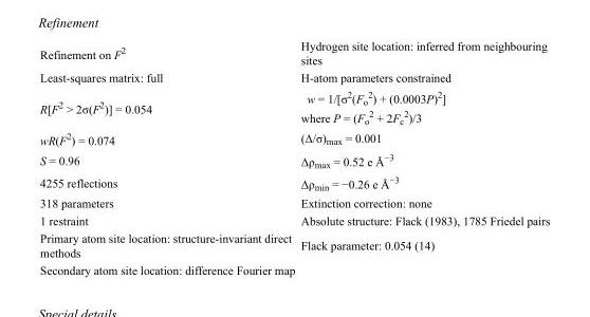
<table><tbody><tr><td>Refinement on F<sup>2</sup></td><td>Hydrogen site location: inferred from neighbouring sites</td></tr><tr><td>Least-squares matrix: full</td><td>H-atom parameters constrained</td></tr><tr><td>R[F<sup>2</sup> &gt; 2σ(F<sup>2</sup>)] = 0.054</td><td>w = 1/[σ<sup>2</sup>(F<sub>o</sub> <sup>2</sup>) + (0.0003P)<sup>2</sup>] where P = (F<sub>o</sub> <sup>2</sup> + 2F<sub>c</sub> <sup>2</sup>)/3</td></tr><tr><td>wR(F<sup>2</sup>) = 0.074</td><td>(Δ/σ)<sub>max</sub> = 0.001</td></tr><tr><td>S = 0.96</td><td>Δρ<sub>max</sub> = 0.52 e Å<sup>−3</sup></td></tr><tr><td>4255 reflections</td><td>Δρ<sub>min</sub> = −0.26 e Å<sup>−3</sup></td></tr><tr><td>318 parameters</td><td>Extinction correction: none</td></tr><tr><td>1 restraint</td><td>Absolute structure: Flack (1983), 1785 Friedel pairs</td></tr><tr><td>Primary atom site location: structure-invariant direct methods</td><td>Flack parameter: 0.054 (14)</td></tr><tr><td>Secondary atom site location: difference Fourier map</td><td></td></tr></tbody></table>